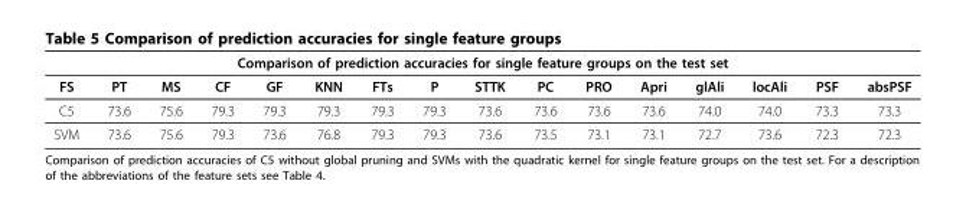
<table><thead><tr><td colspan="16">Comparison of prediction accuracies for single feature groups on the test set</td></tr><tr><td>FS</td><td>PT</td><td>MS</td><td>CF</td><td>GF</td><td>KNN</td><td>FTs</td><td>P</td><td>STTK</td><td>PC</td><td>PRO</td><td>Apri</td><td>glAli</td><td>locAli</td><td>PSF</td><td>absPSF</td></tr></thead><tbody><tr><td>C5</td><td>73.6</td><td>75.6</td><td>79.3</td><td>79.3</td><td>79.3</td><td>79.3</td><td>79.3</td><td>73.6</td><td>73.6</td><td>73.6</td><td>73.6</td><td>74.0</td><td>74.0</td><td>73.3</td><td>73.3</td></tr><tr><td>SVM</td><td>73.6</td><td>75.6</td><td>79.3</td><td>73.6</td><td>76.8</td><td>79.3</td><td>79.3</td><td>73.6</td><td>73.5</td><td>73.1</td><td>73.1</td><td>72.7</td><td>73.6</td><td>72.3</td><td>72.3</td></tr></tbody></table>